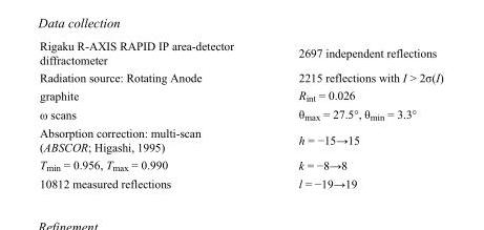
<table><tbody><tr><td>Rigaku R-AXIS RAPID IP area-detector diffractometer</td><td>2697 independent reflections</td></tr><tr><td>Radiation source: Rotating Anode</td><td>2215 reflections with I &gt; 2σ(I)</td></tr><tr><td>graphite</td><td>R<sub>int</sub> = 0.026</td></tr><tr><td>ω scans</td><td>θ<sub>max</sub> = 27.5°, θ<sub>min</sub> = 3.3°</td></tr><tr><td>Absorption correction: multi-scan (ABSCOR; Higashi, 1995)</td><td>h = −15→15</td></tr><tr><td>T<sub>min</sub> = 0.956, T<sub>max</sub> = 0.990</td><td>k = −8→8</td></tr><tr><td>10812 measured reflections</td><td>l = −19→19</td></tr></tbody></table>